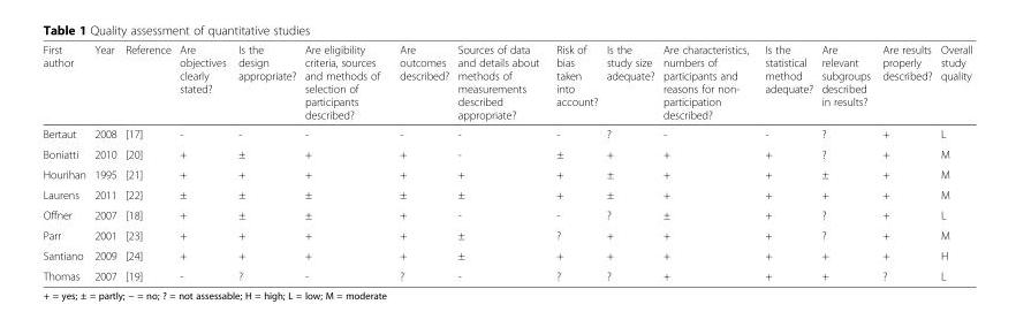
<table><thead><tr><td>First author</td><td>Year</td><td>Reference</td><td>Are objectives clearly stated?</td><td>Is the design appropriate?</td><td>Are eligibility criteria, sources and methods of selection of participants described?</td><td>Are outcomes described?</td><td>Sources of data and details about methods of measurements described appropriate?</td><td>Risk of bias taken into account?</td><td>Is the study size adequate?</td><td>Are characteristics, numbers of participants and reasons for non- participation described?</td><td>Is the statistical method adequate?</td><td>Are relevant subgroups described in results?</td><td>Are results properly described?</td><td>Overall study quality</td></tr></thead><tbody><tr><td>Bertaut</td><td>2008</td><td>[17]</td><td>-</td><td>-</td><td>-</td><td>-</td><td>-</td><td>-</td><td>?</td><td>-</td><td>-</td><td>?</td><td>+</td><td>L</td></tr><tr><td>Boniatti</td><td>2010</td><td>[20]</td><td>+</td><td>±</td><td>+</td><td>+</td><td>-</td><td>±</td><td>+</td><td>+</td><td>+</td><td>?</td><td>+</td><td>M</td></tr><tr><td>Hourihan</td><td>1995</td><td>[21]</td><td>+</td><td>+</td><td>+</td><td>+</td><td>+</td><td>+</td><td>±</td><td>+</td><td>+</td><td>±</td><td>+</td><td>M</td></tr><tr><td>Laurens</td><td>2011</td><td>[22]</td><td>±</td><td>±</td><td>±</td><td>±</td><td>±</td><td>+</td><td>±</td><td>+</td><td>+</td><td>+</td><td>+</td><td>M</td></tr><tr><td>Offner</td><td>2007</td><td>[18]</td><td>+</td><td>±</td><td>±</td><td>+</td><td>-</td><td>-</td><td>?</td><td>±</td><td>+</td><td>?</td><td>+</td><td>L</td></tr><tr><td>Parr</td><td>2001</td><td>[23]</td><td>+</td><td>+</td><td>+</td><td>+</td><td>±</td><td>?</td><td>+</td><td>+</td><td>+</td><td>?</td><td>+</td><td>M</td></tr><tr><td>Santiano</td><td>2009</td><td>[24]</td><td>+</td><td>+</td><td>+</td><td>+</td><td>±</td><td>+</td><td>+</td><td>+</td><td>+</td><td>+</td><td>+</td><td>H</td></tr><tr><td>Thomas</td><td>2007</td><td>[19]</td><td>-</td><td>?</td><td>-</td><td>?</td><td>-</td><td>?</td><td>?</td><td>+</td><td>+</td><td>+</td><td>?</td><td>L</td></tr></tbody></table>